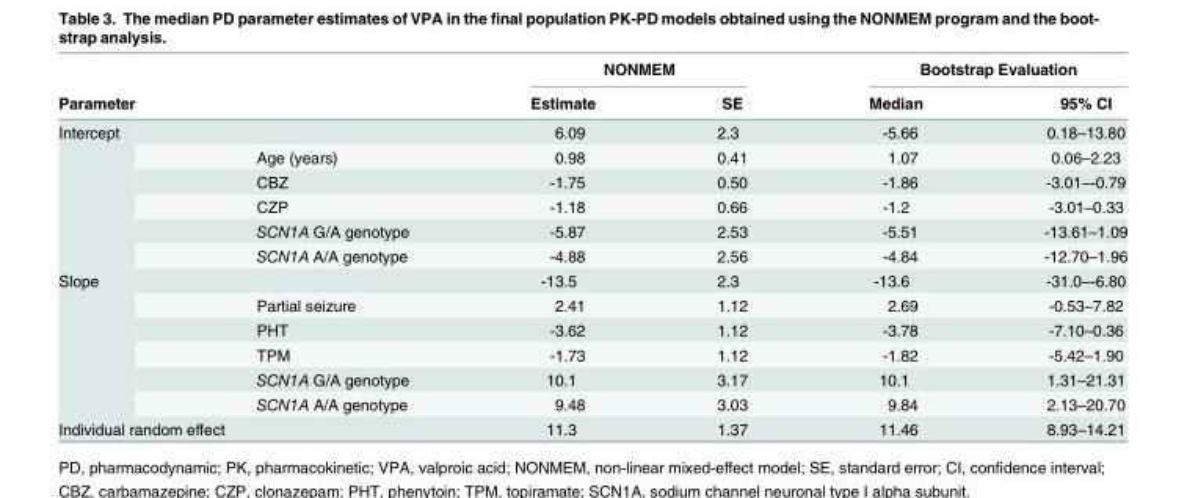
<table><thead><tr><td rowspan="2">Parameter</td><td rowspan="2"></td><td colspan="2">NONMEM</td><td colspan="2">Bootstrap Evaluation</td></tr><tr><td>Estimate</td><td>SE</td><td>Median</td><td>95% CI</td></tr></thead><tbody><tr><td rowspan="6">Intercept</td><td></td><td>6.09</td><td>2.3</td><td>-5.66</td><td>0.18–13.80</td></tr><tr><td>Age (years)</td><td>0.98</td><td>0.41</td><td>1.07</td><td>0.06–2.23</td></tr><tr><td>CBZ</td><td>-1.75</td><td>0.50</td><td>-1.86</td><td>-3.01–-0.79</td></tr><tr><td>CZP</td><td>-1.18</td><td>0.66</td><td>-1.2</td><td>-3.01–0.33</td></tr><tr><td>SCN1A G/A genotype</td><td>-5.87</td><td>2.53</td><td>-5.51</td><td>-13.61–1.09</td></tr><tr><td>SCN1A A/A genotype</td><td>-4.88</td><td>2.56</td><td>-4.84</td><td>-12.70–1.96</td></tr><tr><td rowspan="6">Slope</td><td></td><td>-13.5</td><td>2.3</td><td>-13.6</td><td>-31.0–-6.80</td></tr><tr><td>Partial seizure</td><td>2.41</td><td>1.12</td><td>2.69</td><td>-0.53–7.82</td></tr><tr><td>PHT</td><td>-3.62</td><td>1.12</td><td>-3.78</td><td>-7.10–0.36</td></tr><tr><td>TPM</td><td>-1.73</td><td>1.12</td><td>-1.82</td><td>-5.42–1.90</td></tr><tr><td>SCN1A G/A genotype</td><td>10.1</td><td>3.17</td><td>10.1</td><td>1.31–21.31</td></tr><tr><td>SCN1A A/A genotype</td><td>9.48</td><td>3.03</td><td>9.84</td><td>2.13–20.70</td></tr><tr><td colspan="2">Individual random effect</td><td>11.3</td><td>1.37</td><td>11.46</td><td>8.93–14.21</td></tr></tbody></table>